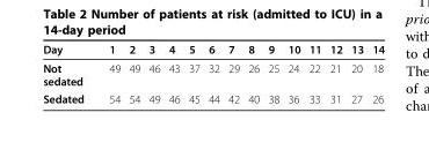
<table><thead><tr><td>Day</td><td>1</td><td>2</td><td>3</td><td>4</td><td>5</td><td>6</td><td>7</td><td>8</td><td>9</td><td>10</td><td>11</td><td>12</td><td>13</td><td>14</td></tr></thead><tbody><tr><td>Not sedated</td><td>49</td><td>49</td><td>46</td><td>43</td><td>37</td><td>32</td><td>29</td><td>26</td><td>25</td><td>24</td><td>22</td><td>21</td><td>20</td><td>18</td></tr><tr><td>Sedated</td><td>54</td><td>54</td><td>49</td><td>46</td><td>45</td><td>44</td><td>42</td><td>40</td><td>38</td><td>36</td><td>33</td><td>31</td><td>27</td><td>26</td></tr></tbody></table>